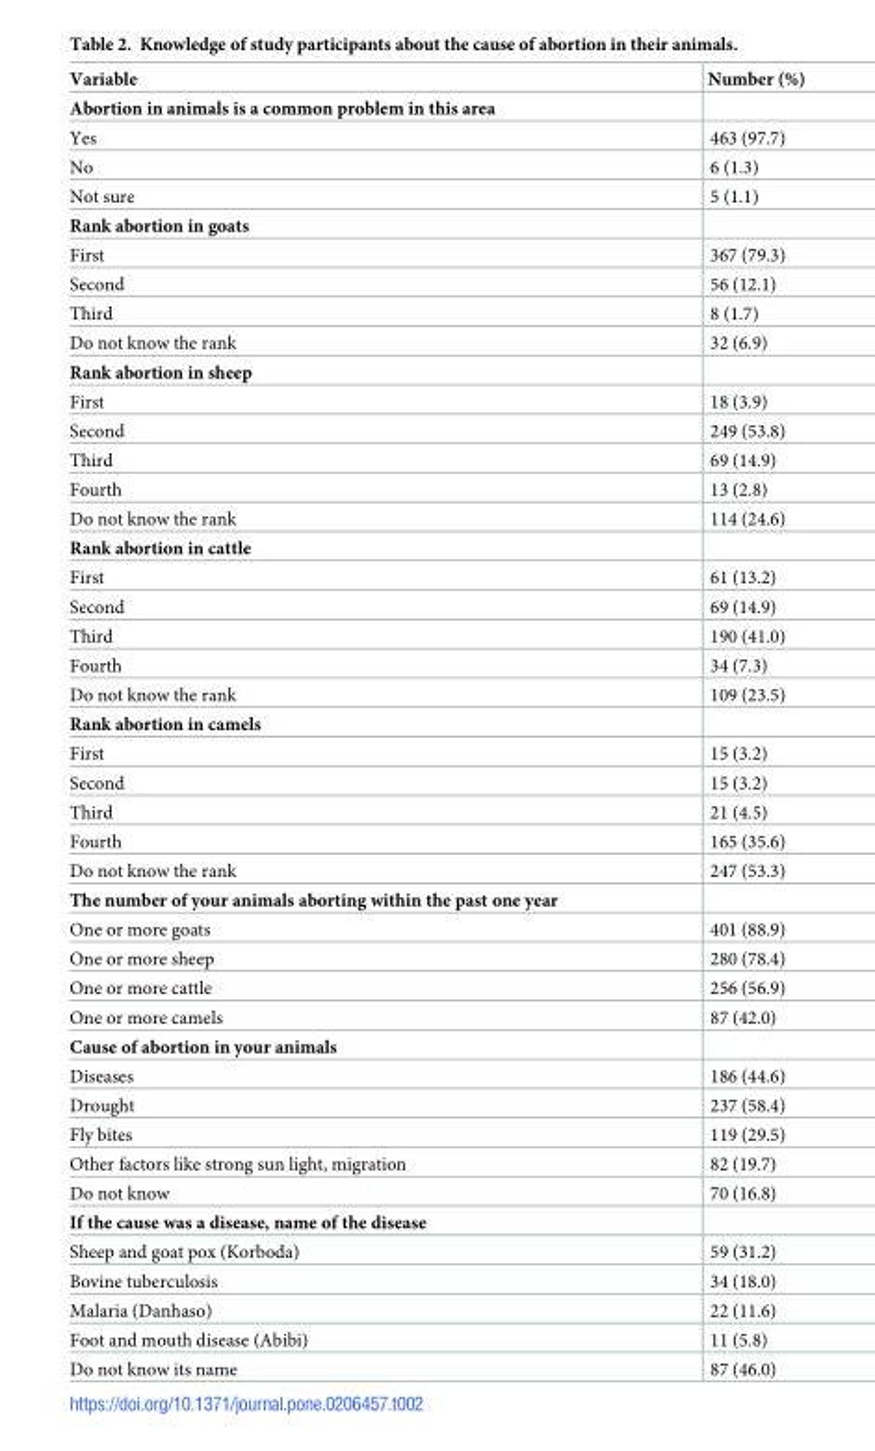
<table><thead><tr><td>Variable</td><td>Number (%)</td></tr></thead><tbody><tr><td colspan="2">Abortion in animals is a common problem in this area</td></tr><tr><td>Yes</td><td>463 (97.7)</td></tr><tr><td>No</td><td>6 (1.3)</td></tr><tr><td>Not sure</td><td>5 (1.1)</td></tr><tr><td colspan="2">Rank abortion in goats</td></tr><tr><td>First</td><td>367 (79.3)</td></tr><tr><td>Second</td><td>56 (12.1)</td></tr><tr><td>Third</td><td>8 (1.7)</td></tr><tr><td>Do not know the rank</td><td>32 (6.9)</td></tr><tr><td colspan="2">Rank abortion in sheep</td></tr><tr><td>First</td><td>18 (3.9)</td></tr><tr><td>Second</td><td>249 (53.8)</td></tr><tr><td>Third</td><td>69 (14.9)</td></tr><tr><td>Fourth</td><td>13 (2.8)</td></tr><tr><td>Do not know the rank</td><td>114 (24.6)</td></tr><tr><td colspan="2">Rank abortion in cattle</td></tr><tr><td>First</td><td>61 (13.2)</td></tr><tr><td>Second</td><td>69 (14.9)</td></tr><tr><td>Third</td><td>190 (41.0)</td></tr><tr><td>Fourth</td><td>34 (7.3)</td></tr><tr><td>Do not know the rank</td><td>109 (23.5)</td></tr><tr><td colspan="2">Rank abortion in camels</td></tr><tr><td>First</td><td>15 (3.2)</td></tr><tr><td>Second</td><td>15 (3.2)</td></tr><tr><td>Third</td><td>21 (4.5)</td></tr><tr><td>Fourth</td><td>165 (35.6)</td></tr><tr><td>Do not know the rank</td><td>247 (53.3)</td></tr><tr><td colspan="2">The number of your animals aborting within the past one year</td></tr><tr><td>One or more goats</td><td>401 (88.9)</td></tr><tr><td>One or more sheep</td><td>280 (78.4)</td></tr><tr><td>One or more cattle</td><td>256 (56.9)</td></tr><tr><td>One or more camels</td><td>87 (42.0)</td></tr><tr><td colspan="2">Cause of abortion in your animals</td></tr><tr><td>Diseases</td><td>186 (44.6)</td></tr><tr><td>Drought</td><td>237 (58.4)</td></tr><tr><td>Fly bites</td><td>119 (29.5)</td></tr><tr><td>Other factors like strong sun light, migration</td><td>82 (19.7)</td></tr><tr><td>Do not know</td><td>70 (16.8)</td></tr><tr><td colspan="2">If the cause was a disease, name of the disease</td></tr><tr><td>Sheep and goat pox (Korboda)</td><td>59 (31.2)</td></tr><tr><td>Bovine tuberculosis</td><td>34 (18.0)</td></tr><tr><td>Malaria (Danhaso)</td><td>22 (11.6)</td></tr><tr><td>Foot and mouth disease (Abibi)</td><td>11 (5.8)</td></tr><tr><td>Do not know its name</td><td>87 (46.0)</td></tr></tbody></table>